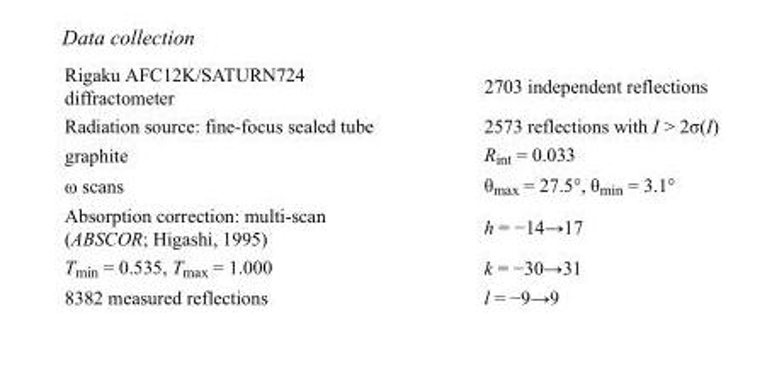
<table><tbody><tr><td>Rigaku AFC12K/SATURN724 diffractometer</td><td>2703 independent reflections</td></tr><tr><td>Radiation source: fine-focus sealed tube</td><td>2573 reflections with I &gt; 2σ(I)</td></tr><tr><td>graphite</td><td>R<sub>int</sub> = 0.033</td></tr><tr><td>ω scans</td><td>θ<sub>max</sub> = 27.5°, θ<sub>min</sub> = 3.1°</td></tr><tr><td>Absorption correction: multi-scan (ABSCOR; Higashi, 1995)</td><td>h = −14→17</td></tr><tr><td>T<sub>min</sub> = 0.535, T<sub>max</sub> = 1.000</td><td>k = −30→31</td></tr><tr><td>8382 measured reflections</td><td>l = −9→9</td></tr></tbody></table>